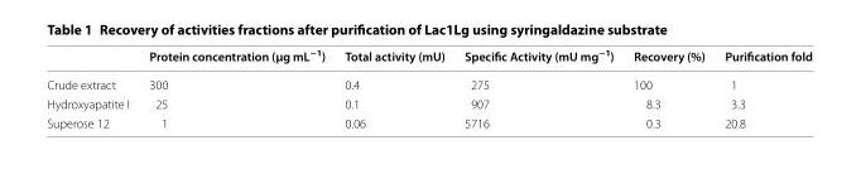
<table><thead><tr><td></td><td>Protein concentration (µg mL<sup>−1</sup>)</td><td>Total activity (mU)</td><td>Specific Activity (mU mg<sup>−1</sup>)</td><td>Recovery (%)</td><td>Purification fold</td></tr></thead><tbody><tr><td>Crude extract</td><td>300</td><td>0.4</td><td>275</td><td>100</td><td>1</td></tr><tr><td>Hydroxyapatite I</td><td>25</td><td>0.1</td><td>907</td><td>8.3</td><td>3.3</td></tr><tr><td>Superose 12</td><td>1</td><td>0.06</td><td>5716</td><td>0.3</td><td>20.8</td></tr></tbody></table>